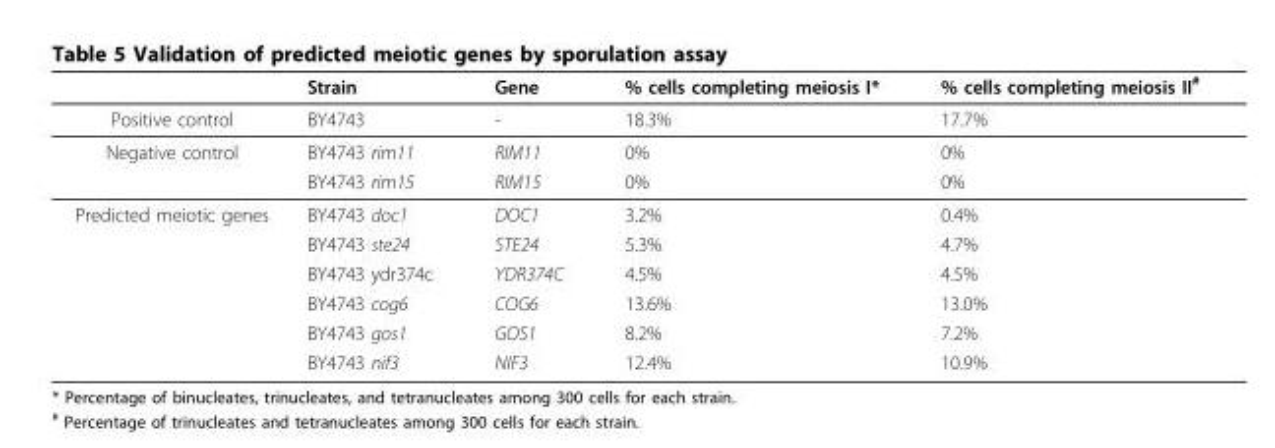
<table><thead><tr><td></td><td>Strain</td><td>Gene</td><td>% cells completing meiosis I*</td><td>% cells completing meiosis II<sup>#</sup></td></tr></thead><tbody><tr><td>Positive control</td><td>BY4743</td><td>-</td><td>18.3%</td><td>17.7%</td></tr><tr><td rowspan="2">Negative control</td><td>BY4743 rim11</td><td>RIM11</td><td>0%</td><td>0%</td></tr><tr><td>BY4743 rim15</td><td>RIM15</td><td>0%</td><td>0%</td></tr><tr><td rowspan="6">Predicted meiotic genes</td><td>BY4743 doc1</td><td>DOC1</td><td>3.2%</td><td>0.4%</td></tr><tr><td>BY4743 ste24</td><td>STE24</td><td>5.3%</td><td>4.7%</td></tr><tr><td>BY4743 ydr374c</td><td>YDR374C</td><td>4.5%</td><td>4.5%</td></tr><tr><td>BY4743 cog6</td><td>COG6</td><td>13.6%</td><td>13.0%</td></tr><tr><td>BY4743 gos1</td><td>GOS1</td><td>8.2%</td><td>7.2%</td></tr><tr><td>BY4743 nif3</td><td>NIF3</td><td>12.4%</td><td>10.9%</td></tr></tbody></table>